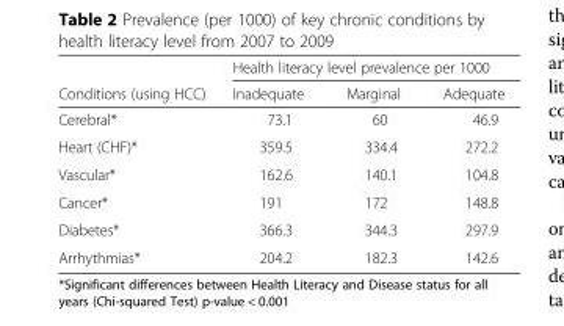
<table><thead><tr><td rowspan="2">Conditions (using HCC)</td><td colspan="3">Health literacy level prevalence per 1000</td></tr><tr><td>Inadequate</td><td>Marginal</td><td>Adequate</td></tr></thead><tbody><tr><td>Cerebral*</td><td>73.1</td><td>60</td><td>46.9</td></tr><tr><td>Heart (CHF)*</td><td>359.5</td><td>334.4</td><td>272.2</td></tr><tr><td>Vascular*</td><td>162.6</td><td>140.1</td><td>104.8</td></tr><tr><td>Cancer*</td><td>191</td><td>172</td><td>148.8</td></tr><tr><td>Diabetes*</td><td>366.3</td><td>344.3</td><td>297.9</td></tr><tr><td>Arrhythmias*</td><td>204.2</td><td>182.3</td><td>142.6</td></tr></tbody></table>